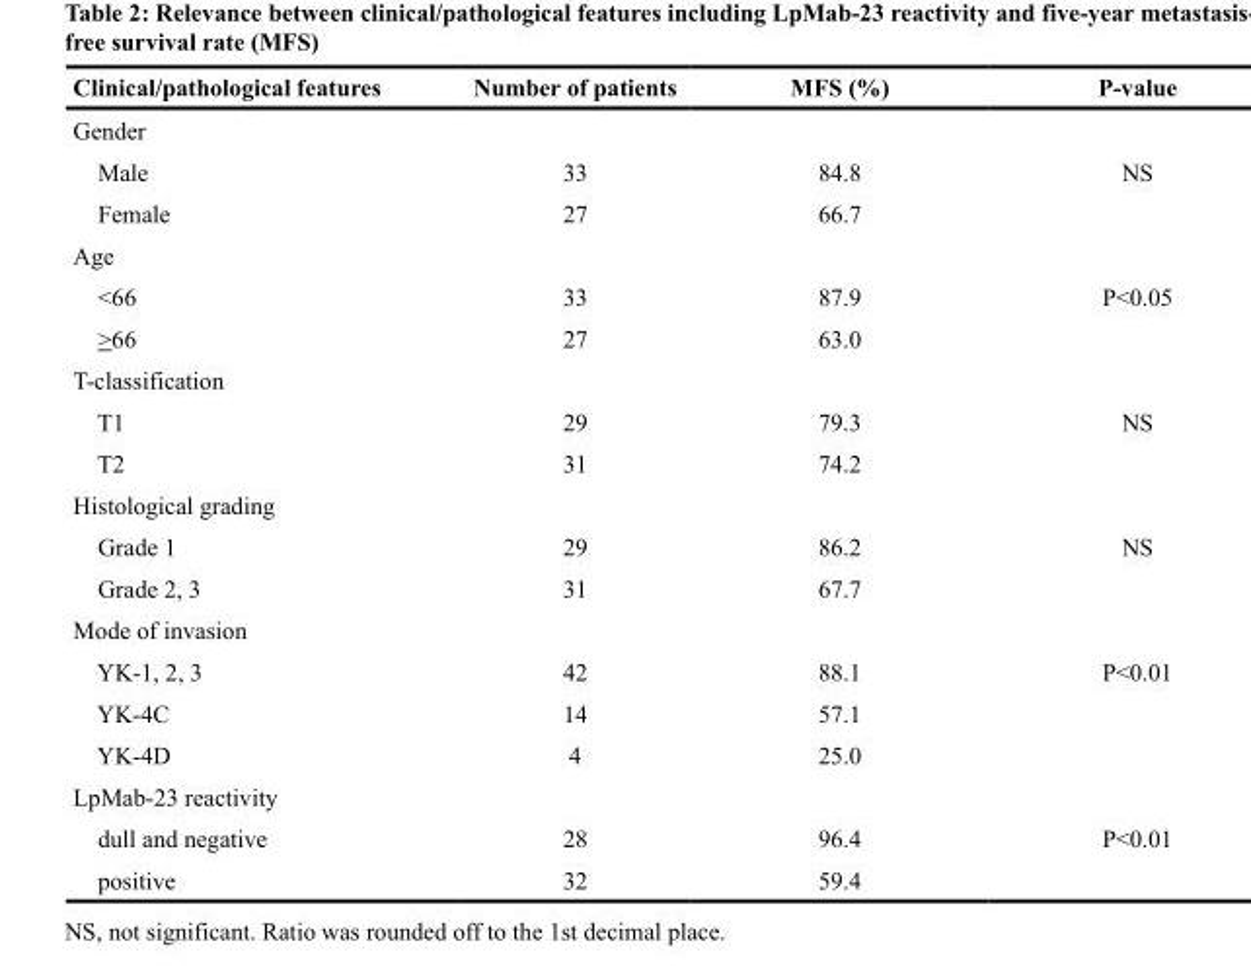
<table><thead><tr><td>Clinical/pathological features</td><td>Number of patients</td><td>MFS (%)</td><td>P-value</td></tr></thead><tbody><tr><td colspan="4">Gender</td></tr><tr><td>Male</td><td>33</td><td>84.8</td><td rowspan="2">NS</td></tr><tr><td>Female</td><td>27</td><td>66.7</td></tr><tr><td colspan="4">Age</td></tr><tr><td>&lt;66</td><td>33</td><td>87.9</td><td rowspan="2">P&lt;0.05</td></tr><tr><td>&gt;66</td><td>27</td><td>63.0</td></tr><tr><td colspan="4">T-classification</td></tr><tr><td>T1</td><td>29</td><td>79.3</td><td rowspan="2">NS</td></tr><tr><td>T2</td><td>31</td><td>74.2</td></tr><tr><td colspan="4">Histological grading</td></tr><tr><td>Grade 1</td><td>29</td><td>86.2</td><td rowspan="2">NS</td></tr><tr><td>Grade 2, 3</td><td>31</td><td>67.7</td></tr><tr><td colspan="4">Mode of invasion</td></tr><tr><td>YK-1, 2, 3</td><td>42</td><td>88.1</td><td rowspan="3">P&lt;0.01</td></tr><tr><td>YK-4C</td><td>14</td><td>57.1</td></tr><tr><td>YK-4D</td><td>4</td><td>25.0</td></tr><tr><td colspan="4">LpMab-23 reactivity</td></tr><tr><td>dull and negative</td><td>28</td><td>96.4</td><td rowspan="2">P&lt;0.01</td></tr><tr><td>positive</td><td>32</td><td>59.4</td></tr></tbody></table>